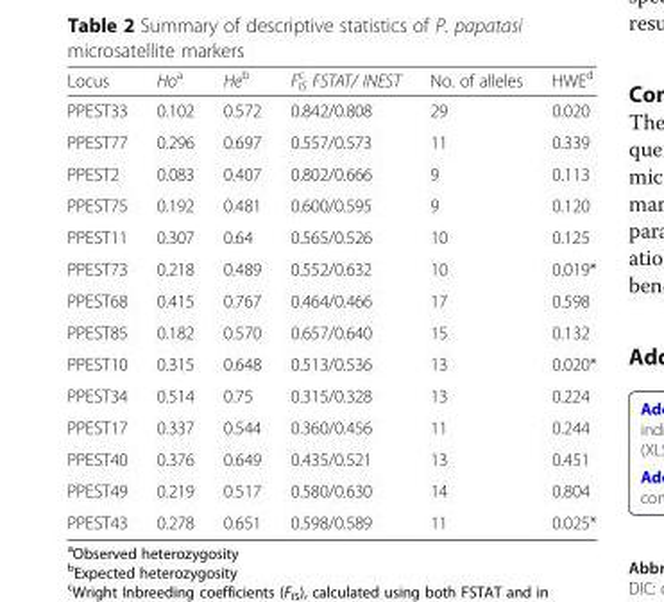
<table><thead><tr><td>Locus</td><td>Ho<sup>a</sup></td><td>He<sup>b</sup></td><td>F<sub>IS</sub> <sup>c</sup> FSTAT/ INEST</td><td>No. of alleles</td><td>HWE<sup>d</sup></td></tr></thead><tbody><tr><td>PPEST33</td><td>0.102</td><td>0.572</td><td>0.842/0.808</td><td>29</td><td>0.020</td></tr><tr><td>PPEST77</td><td>0.296</td><td>0.697</td><td>0.557/0.573</td><td>11</td><td>0.339</td></tr><tr><td>PPEST2</td><td>0.083</td><td>0.407</td><td>0.802/0.666</td><td>9</td><td>0.113</td></tr><tr><td>PPEST75</td><td>0.192</td><td>0.481</td><td>0.600/0.595</td><td>9</td><td>0.120</td></tr><tr><td>PPEST11</td><td>0.307</td><td>0.64</td><td>0.565/0.526</td><td>10</td><td>0.125</td></tr><tr><td>PPEST73</td><td>0.218</td><td>0.489</td><td>0.552/0.632</td><td>10</td><td>0.019*</td></tr><tr><td>PPEST68</td><td>0.415</td><td>0.767</td><td>0.464/0.466</td><td>17</td><td>0.598</td></tr><tr><td>PPEST85</td><td>0.182</td><td>0.570</td><td>0.657/0.640</td><td>15</td><td>0.132</td></tr><tr><td>PPEST10</td><td>0.315</td><td>0.648</td><td>0.513/0.536</td><td>13</td><td>0.020*</td></tr><tr><td>PPEST34</td><td>0.514</td><td>0.75</td><td>0.315/0.328</td><td>13</td><td>0.224</td></tr><tr><td>PPEST17</td><td>0.337</td><td>0.544</td><td>0.360/0.456</td><td>11</td><td>0.244</td></tr><tr><td>PPEST40</td><td>0.376</td><td>0.649</td><td>0.435/0.521</td><td>13</td><td>0.451</td></tr><tr><td>PPEST49</td><td>0.219</td><td>0.517</td><td>0.580/0.630</td><td>14</td><td>0.804</td></tr><tr><td>PPEST43</td><td>0.278</td><td>0.651</td><td>0.598/0.589</td><td>11</td><td>0.025*</td></tr></tbody></table>